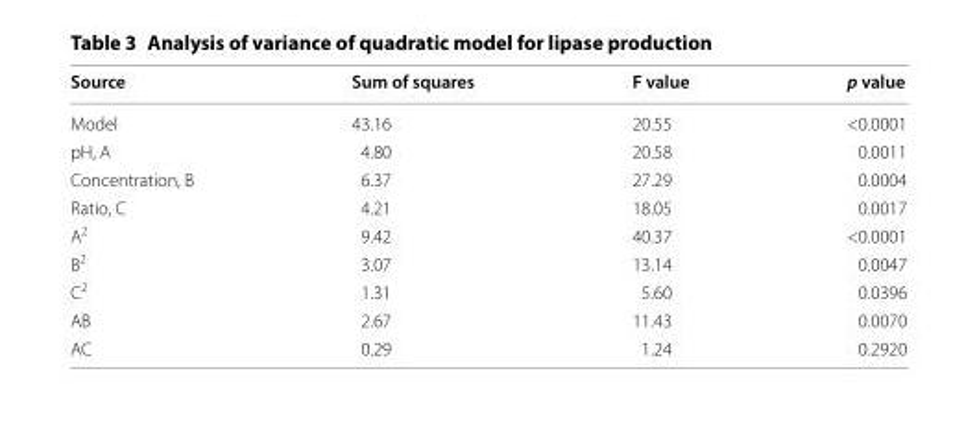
<table><thead><tr><td>Source</td><td>Sum of squares</td><td>F value</td><td>p value</td></tr></thead><tbody><tr><td>Model</td><td>43.16</td><td>20.55</td><td>&lt;0.0001</td></tr><tr><td>pH, A</td><td>4.80</td><td>20.58</td><td>0.0011</td></tr><tr><td>Concentration, B</td><td>6.37</td><td>27.29</td><td>0.0004</td></tr><tr><td>Ratio, C</td><td>4.21</td><td>18.05</td><td>0.0017</td></tr><tr><td>A<sup>2</sup></td><td>9.42</td><td>40.37</td><td>&lt;0.0001</td></tr><tr><td>B<sup>2</sup></td><td>3.07</td><td>13.14</td><td>0.0047</td></tr><tr><td>C<sup>2</sup></td><td>1.31</td><td>5.60</td><td>0.0396</td></tr><tr><td>AB</td><td>2.67</td><td>11.43</td><td>0.0070</td></tr><tr><td>AC</td><td>0.29</td><td>1.24</td><td>0.2920</td></tr></tbody></table>